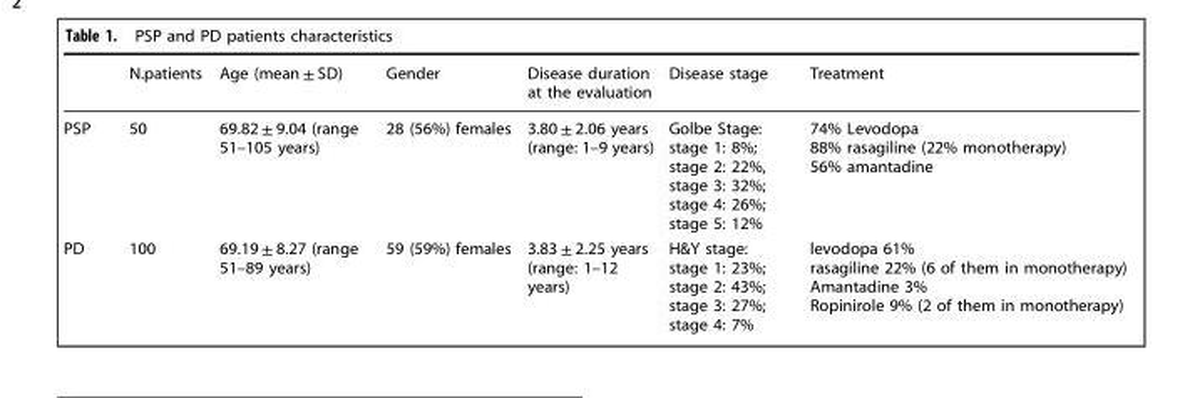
<table><thead><tr><td></td><td>N.patients</td><td>Age (mean ± SD)</td><td>Gender</td><td>Disease duration at the evaluation</td><td>Disease stage</td><td>Treatment</td></tr></thead><tbody><tr><td>PSP</td><td>50</td><td>69.82 ± 9.04 (range 51–105 years)</td><td>28 (56%) females</td><td>3.80 ± 2.06 years (range: 1–9 years)</td><td>Golbe Stage: stage 1: 8%; stage 2: 22%, stage 3: 32%; stage 4: 26%; stage 5: 12%</td><td>74% Levodopa 88% rasagiline (22% monotherapy) 56% amantadine</td></tr><tr><td>PD</td><td>100</td><td>69.19 ± 8.27 (range 51–89 years)</td><td>59 (59%) females</td><td>3.83 ± 2.25 years (range: 1–12 years)</td><td>H&amp;Y stage: stage 1: 23%; stage 2: 43%; stage 3: 27%; stage 4: 7%</td><td>levodopa 61% rasagiline 22% (6 of them in monotherapy) Amantadine 3% Ropinirole 9% (2 of them in monotherapy)</td></tr></tbody></table>